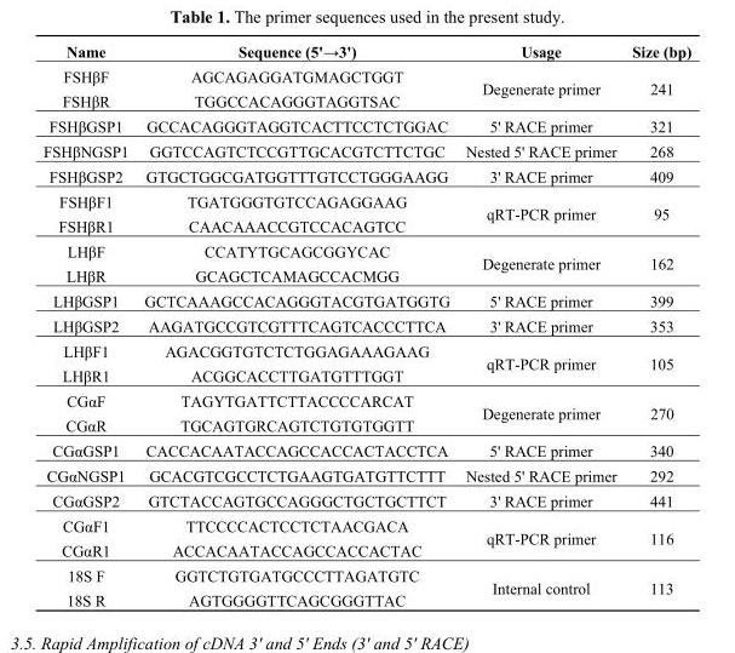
<table><thead><tr><td>Name</td><td>Sequence (5&#x27;→3&#x27;)</td><td>Usage</td><td>Size (bp)</td></tr></thead><tbody><tr><td>FSHβF</td><td>AGCAGAGGATGMAGCTGGT</td><td rowspan="2">Degenerate primer</td><td rowspan="2">241</td></tr><tr><td>FSHβR</td><td>TGGCCACAGGGTAGGTSAC</td></tr><tr><td>FSHβGSP1</td><td>GCCACAGGGTAGGTCACTTCCTCTGGAC</td><td>5&#x27; RACE primer</td><td>321</td></tr><tr><td>FSHβNGSP1</td><td>GGTCCAGTCTCCGTTGCACGTCTTCTGC</td><td>Nested 5&#x27; RACE primer</td><td>268</td></tr><tr><td>FSHβGSP2</td><td>GTGCTGGCGATGGTTTGTCCTGGGAAGG</td><td>3&#x27; RACE primer</td><td>409</td></tr><tr><td>FSHβF1</td><td>TGATGGGTGTCCAGAGGAAG</td><td rowspan="2">qRT-PCR primer</td><td rowspan="2">95</td></tr><tr><td>FSHβR1</td><td>CAACAAACCGTCCACAGTCC</td></tr><tr><td>LHβF</td><td>CCATYTGCAGCGGYCAC</td><td rowspan="2">Degenerate primer</td><td rowspan="2">162</td></tr><tr><td>LHβR</td><td>GCAGCTCAMAGCCACMGG</td></tr><tr><td>LHβGSP1</td><td>GCTCAAAGCCACAGGGTACGTGATGGTG</td><td>5&#x27; RACE primer</td><td>399</td></tr><tr><td>LHβGSP2</td><td>AAGATGCCGTCGTTTCAGTCACCCTTCA</td><td>3&#x27; RACE primer</td><td>353</td></tr><tr><td>LHβF1</td><td>AGACGGTGTCTCTGGAGAAAGAAG</td><td rowspan="2">qRT-PCR primer</td><td rowspan="2">105</td></tr><tr><td>LHβR1</td><td>ACGGCACCTTGATGTTTGGT</td></tr><tr><td>CGαF</td><td>TAGYTGATTCTTACCCCARCAT</td><td rowspan="2">Degenerate primer</td><td rowspan="2">270</td></tr><tr><td>CGαR</td><td>TGCAGTGRCAGTCTGTGTGGTT</td></tr><tr><td>CGαGSP1</td><td>CACCACAATACCAGCCACCACTACCTCA</td><td>5&#x27; RACE primer</td><td>340</td></tr><tr><td>CGαNGSP1</td><td>GCACGTCGCCTCTGAAGTGATGTTCTTT</td><td>Nested 5&#x27; RACE primer</td><td>292</td></tr><tr><td>CGαGSP2</td><td>GTCTACCAGTGCCAGGGCTGCTGCTTCT</td><td>3&#x27; RACE primer</td><td>441</td></tr><tr><td>CGαF1</td><td>TTCCCCACTCCTCTAACGACA</td><td rowspan="2">qRT-PCR primer</td><td rowspan="2">116</td></tr><tr><td>CGαR1</td><td>ACCACAATACCAGCCACCACTAC</td></tr><tr><td>18S F</td><td>GGTCTGTGATGCCCTTAGATGTC</td><td rowspan="2">Internal control</td><td rowspan="2">113</td></tr><tr><td>18S R</td><td>AGTGGGGTTCAGCGGGTTAC</td></tr></tbody></table>